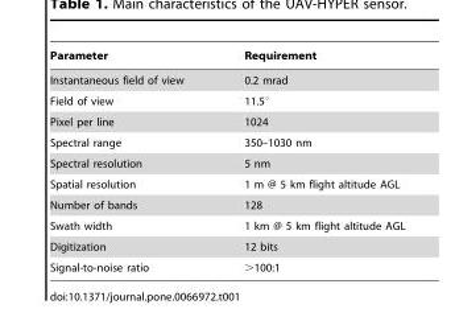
<table><thead><tr><td>Parameter</td><td>Requirement</td></tr></thead><tbody><tr><td>Instantaneous field of view</td><td>0.2 mrad</td></tr><tr><td>Field of view</td><td>11.5°</td></tr><tr><td>Pixel per line</td><td>1024</td></tr><tr><td>Spectral range</td><td>350–1030 nm</td></tr><tr><td>Spectral resolution</td><td>5 nm</td></tr><tr><td>Spatial resolution</td><td>1 m @ 5 km flight altitude AGL</td></tr><tr><td>Number of bands</td><td>128</td></tr><tr><td>Swath width</td><td>1 km @ 5 km flight altitude AGL</td></tr><tr><td>Digitization</td><td>12 bits</td></tr><tr><td>Signal-to-noise ratio</td><td>&gt;100:1</td></tr></tbody></table>